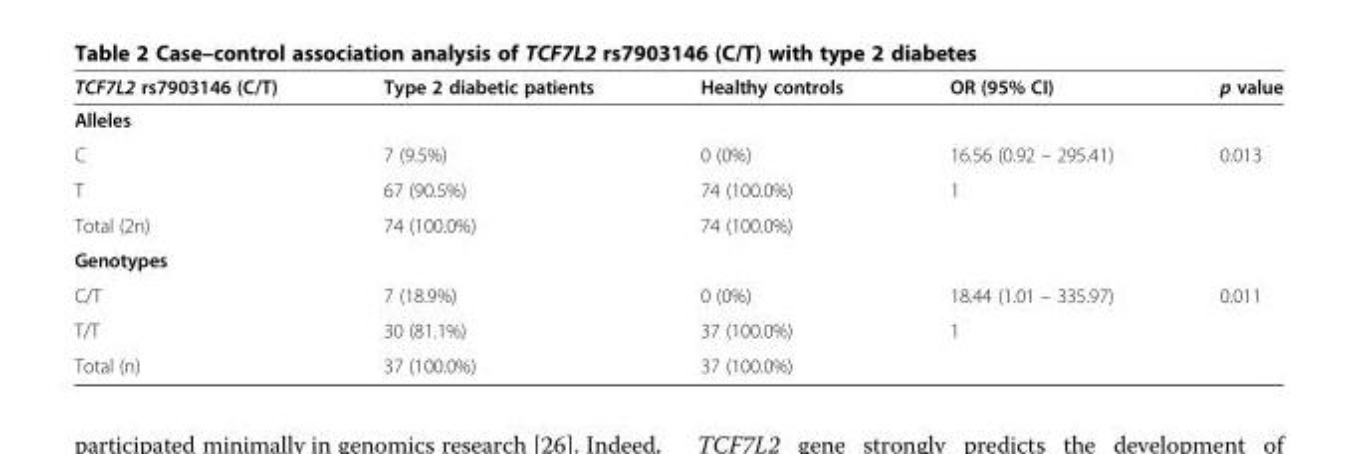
<table><thead><tr><td>TCF7L2 rs7903146 (C/T)</td><td>Type 2 diabetic patients</td><td>Healthy controls</td><td>OR (95% CI)</td><td>p value</td></tr></thead><tbody><tr><td colspan="5">Alleles</td></tr><tr><td>C</td><td>7 (9.5%)</td><td>0 (0%)</td><td>16.56 (0.92 – 295.41)</td><td rowspan="2">0.013</td></tr><tr><td>T</td><td>67 (90.5%)</td><td>74 (100.0%)</td><td>1</td></tr><tr><td>Total (2n)</td><td>74 (100.0%)</td><td>74 (100.0%)</td><td></td><td></td></tr><tr><td colspan="5">Genotypes</td></tr><tr><td>C/T</td><td>7 (18.9%)</td><td>0 (0%)</td><td>18.44 (1.01 – 335.97)</td><td rowspan="2">0.011</td></tr><tr><td>T/T</td><td>30 (81.1%)</td><td>37 (100.0%)</td><td>1</td></tr><tr><td>Total (n)</td><td>37 (100.0%)</td><td>37 (100.0%)</td><td></td><td></td></tr></tbody></table>